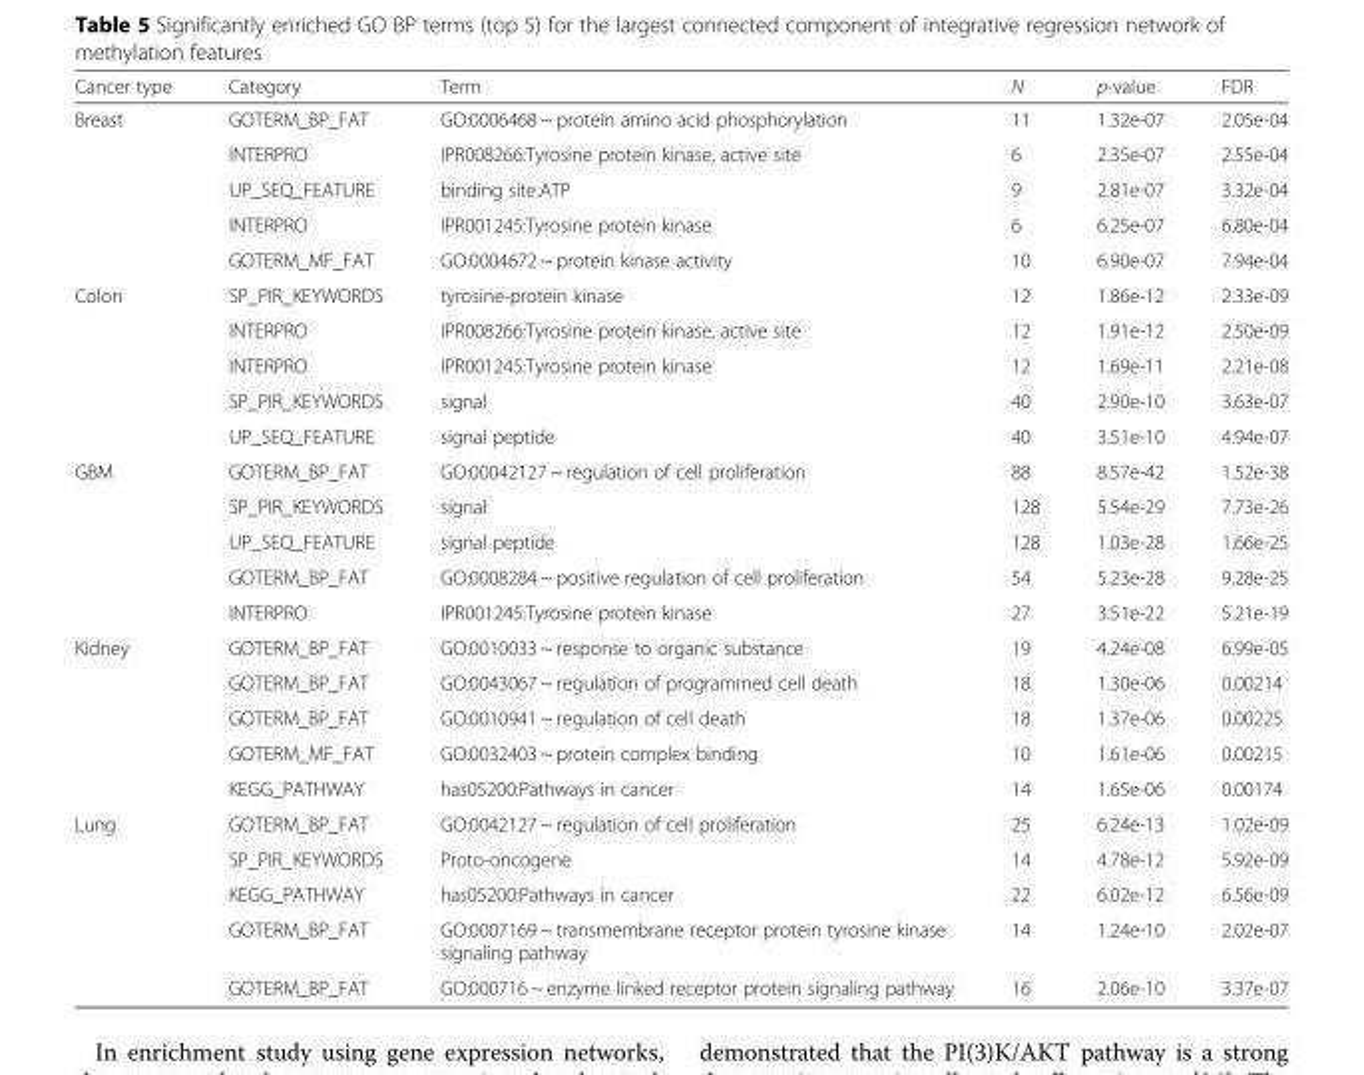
<table><thead><tr><td>Cancer type</td><td>Category</td><td>Term</td><td>N</td><td>p-value</td><td>FDR</td></tr></thead><tbody><tr><td rowspan="5">Breast</td><td>GOTERM_BP_FAT</td><td>GO:0006468 ~ protein amino acid phosphorylation</td><td>11</td><td>1.32e-07</td><td>2.05e-04</td></tr><tr><td>INTERPRO</td><td>IPR008266:Tyrosine protein kinase, active site</td><td>6</td><td>2.35e-07</td><td>2.55e-04</td></tr><tr><td>UP_SEQ_FEATURE</td><td>binding site:ATP</td><td>9</td><td>2.81e-07</td><td>3.32e-04</td></tr><tr><td>INTERPRO</td><td>IPR001245:Tyrosine protein kinase</td><td>6</td><td>6.25e-07</td><td>6.80e-04</td></tr><tr><td>GOTERM_MF_FAT</td><td>GO:0004672 ~ protein kinase activity</td><td>10</td><td>6.90e-07</td><td>7.94e-04</td></tr><tr><td rowspan="5">Colon</td><td>SP_PIR_KEYWORDS</td><td>tyrosine-protein kinase</td><td>12</td><td>1.86e-12</td><td>2.33e-09</td></tr><tr><td>INTERPRO</td><td>IPR008266:Tyrosine protein kinase, active site</td><td>12</td><td>1.91e-12</td><td>2.50e-09</td></tr><tr><td>INTERPRO</td><td>IPR001245:Tyrosine protein kinase</td><td>12</td><td>1.69e-11</td><td>2.21e-08</td></tr><tr><td>SP_PIR_KEYWORDS</td><td>signal</td><td>40</td><td>2.90e-10</td><td>3.63e-07</td></tr><tr><td>UP_SEQ_FEATURE</td><td>signal peptide</td><td>40</td><td>3.51e-10</td><td>4.94e-07</td></tr><tr><td rowspan="5">GBM</td><td>GOTERM_BP_FAT</td><td>GO:00042127 ~ regulation of cell proliferation</td><td>88</td><td>8.57e-42</td><td>1.52e-38</td></tr><tr><td>SP_PIR_KEYWORDS</td><td>signal</td><td>128</td><td>5.54e-29</td><td>7.73e-26</td></tr><tr><td>UP_SEQ_FEATURE</td><td>signal peptide</td><td>128</td><td>1.03e-28</td><td>1.66e-25</td></tr><tr><td>GOTERM_BP_FAT</td><td>GO:0008284 ~ positive regulation of cell proliferation</td><td>54</td><td>5.23e-28</td><td>9.28e-25</td></tr><tr><td>INTERPRO</td><td>IPR001245:Tyrosine protein kinase</td><td>27</td><td>3.51e-22</td><td>5.21e-19</td></tr><tr><td rowspan="5">Kidney</td><td>GOTERM_BP_FAT</td><td>GO:0010033 ~ response to organic substance</td><td>19</td><td>4.24e-08</td><td>6.99e-05</td></tr><tr><td>GOTERM_BP_FAT</td><td>GO:0043067 ~ regulation of programmed cell death</td><td>18</td><td>1.30e-06</td><td>0.00214</td></tr><tr><td>GOTERM_BP_FAT</td><td>GO:0010941 ~ regulation of cell death</td><td>18</td><td>1.37e-06</td><td>0.00225</td></tr><tr><td>GOTERM_MF_FAT</td><td>GO:0032403 ~ protein complex binding</td><td>10</td><td>1.61e-06</td><td>0.00215</td></tr><tr><td>KEGG_PATHWAY</td><td>has05200:Pathways in cancer</td><td>14</td><td>1.65e-06</td><td>0.00174</td></tr><tr><td rowspan="5">Lung</td><td>GOTERM_BP_FAT</td><td>GO:0042127 ~ regulation of cell proliferation</td><td>25</td><td>6.24e-13</td><td>1.02e-09</td></tr><tr><td>SP_PIR_KEYWORDS</td><td>Proto-oncogene</td><td>14</td><td>4.78e-12</td><td>5.92e-09</td></tr><tr><td>KEGG_PATHWAY</td><td>has05200:Pathways in cancer</td><td>22</td><td>6.02e-12</td><td>6.56e-09</td></tr><tr><td>GOTERM_BP_FAT</td><td>GO:0007169 ~ transmembrane receptor protein tyrosine kinase signaling pathway</td><td>14</td><td>1.24e-10</td><td>2.02e-07</td></tr><tr><td>GOTERM_BP_FAT</td><td>GO:000716 ~ enzyme linked receptor protein signaling pathway</td><td>16</td><td>2.06e-10</td><td>3.37e-07</td></tr></tbody></table>